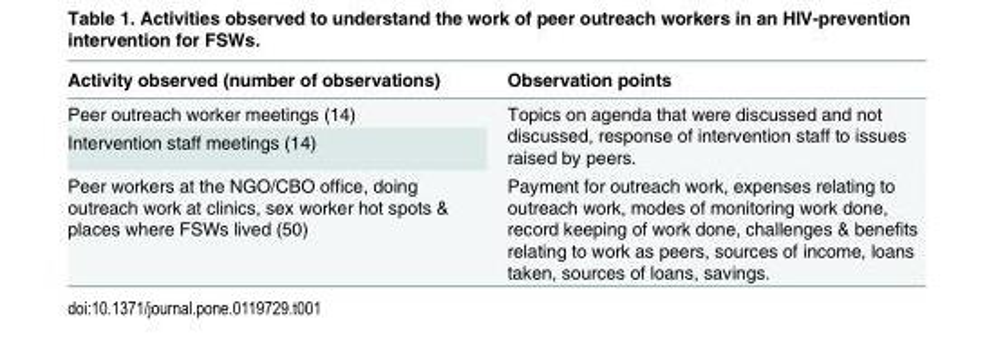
<table><thead><tr><td>Activity observed (number of observations)</td><td>Observation points</td></tr></thead><tbody><tr><td>Peer outreach worker meetings (14)</td><td rowspan="2">Topics on agenda that were discussed and not discussed, response of intervention staff to issues raised by peers.</td></tr><tr><td>Intervention staff meetings (14)</td></tr><tr><td>Peer workers at the NGO/CBO office, doing outreach work at clinics, sex worker hot spots &amp; places where FSWs lived (50)</td><td>Payment for outreach work, expenses relating to outreach work, modes of monitoring work done, record keeping of work done, challenges &amp; benefits relating to work as peers, sources of income, loans taken, sources of loans, savings.</td></tr></tbody></table>